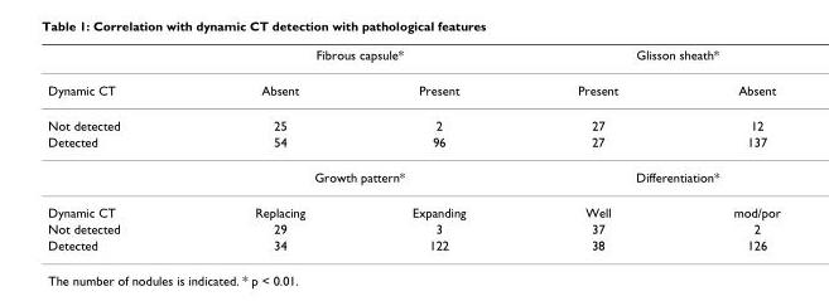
<table><thead><tr><td rowspan="2">Dynamic CT</td><td colspan="2">Fibrous capsule*</td><td colspan="2">Glisson sheath*</td></tr><tr><td>Absent</td><td>Present</td><td>Present</td><td>Absent</td></tr></thead><tbody><tr><td>Not detected</td><td>25</td><td>2</td><td>27</td><td>12</td></tr><tr><td rowspan="2">Detected</td><td>54</td><td>96</td><td>27</td><td>137</td></tr><tr><td colspan="2">Growth pattern*</td><td colspan="2">Differentiation*</td></tr><tr><td>Dynamic CT</td><td>Replacing</td><td>Expanding</td><td>Well</td><td>mod/por</td></tr><tr><td>Not detected</td><td>29</td><td>3</td><td>37</td><td>2</td></tr><tr><td>Detected</td><td>34</td><td>122</td><td>38</td><td>126</td></tr></tbody></table>